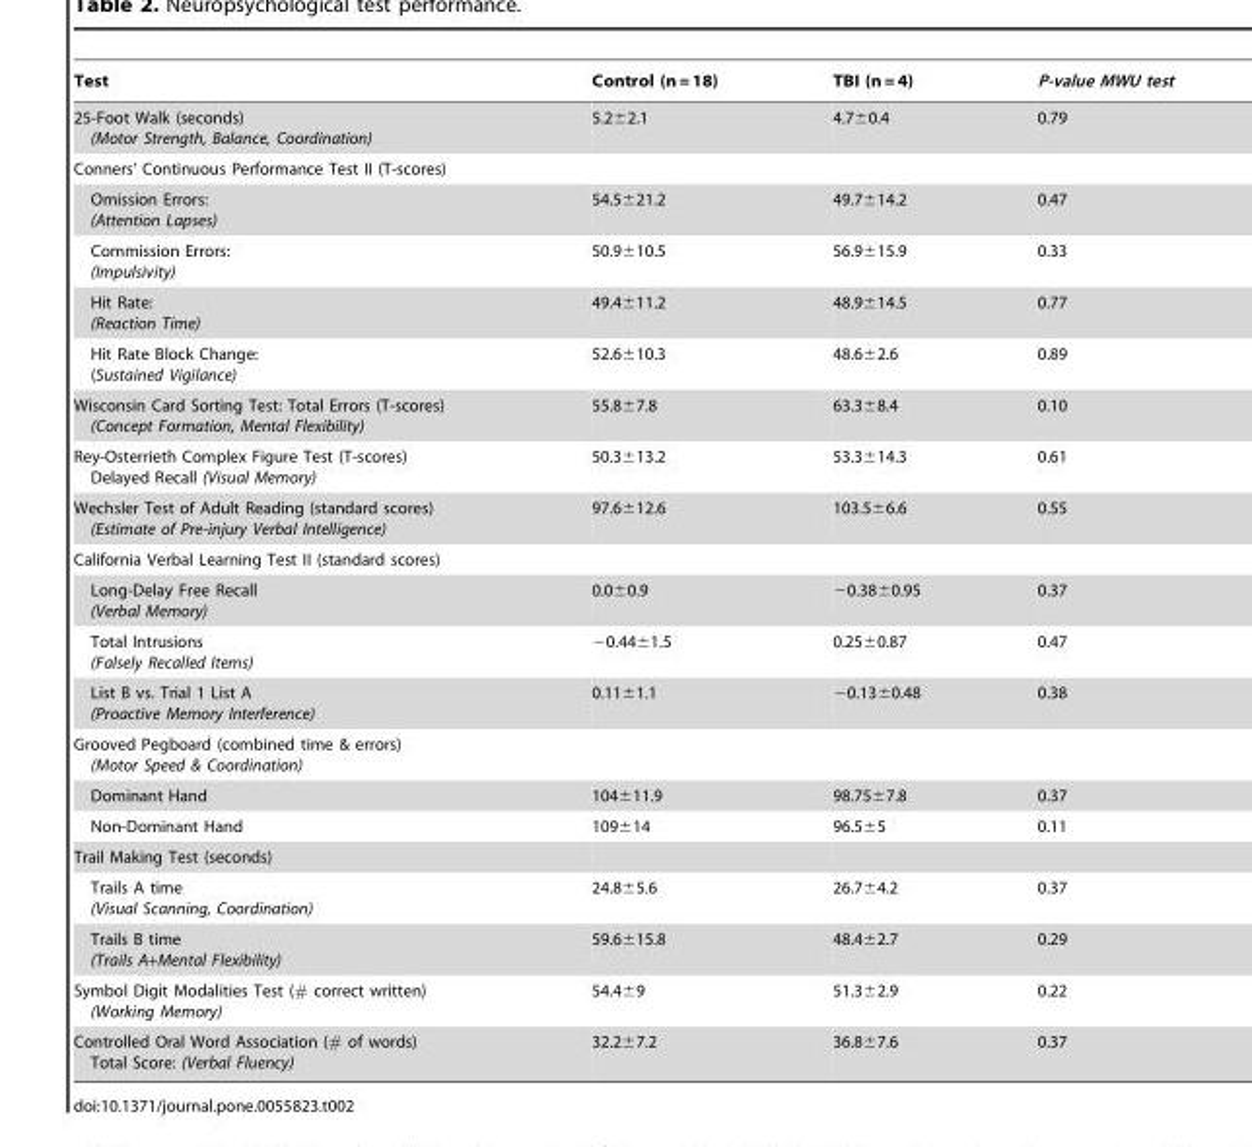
<table><thead><tr><td>Test</td><td>Control (n = 18)</td><td>TBI (n = 4)</td><td>P-value MWU test</td></tr></thead><tbody><tr><td>25-Foot Walk (seconds) (Motor Strength, Balance, Coordination)</td><td>5.2±2.1</td><td>4.7±0.4</td><td>0.79</td></tr><tr><td colspan="4">Conners’ Continuous Performance Test II (T-scores)</td></tr><tr><td>Omission Errors: (Attention Lapses)</td><td>54.5±21.2</td><td>49.7±14.2</td><td>0.47</td></tr><tr><td>Commission Errors: (Impulsivity)</td><td>50.9±10.5</td><td>56.9±15.9</td><td>0.33</td></tr><tr><td>Hit Rate: (Reaction Time)</td><td>49.4±11.2</td><td>48.9±14.5</td><td>0.77</td></tr><tr><td>Hit Rate Block Change: (Sustained Vigilance)</td><td>52.6±10.3</td><td>48.6±2.6</td><td>0.89</td></tr><tr><td>Wisconsin Card Sorting Test: Total Errors (T-scores) (Concept Formation, Mental Flexibility)</td><td>55.8±7.8</td><td>63.3±8.4</td><td>0.10</td></tr><tr><td>Rey-Osterrieth Complex Figure Test (T-scores) Delayed Recall (Visual Memory)</td><td>50.3±13.2</td><td>53.3±14.3</td><td>0.61</td></tr><tr><td>Wechsler Test of Adult Reading (standard scores) (Estimate of Pre-injury Verbal Intelligence)</td><td>97.6±12.6</td><td>103.5±6.6</td><td>0.55</td></tr><tr><td colspan="4">California Verbal Learning Test II (standard scores)</td></tr><tr><td>Long-Delay Free Recall (Verbal Memory)</td><td>0.0±0.9</td><td>−0.38±0.95</td><td>0.37</td></tr><tr><td>Total Intrusions (Falsely Recalled Items)</td><td>−0.44±1.5</td><td>0.25±0.87</td><td>0.47</td></tr><tr><td>List B vs. Trial 1 List A (Proactive Memory Interference)</td><td>0.11±1.1</td><td>−0.13±0.48</td><td>0.38</td></tr><tr><td colspan="4">Grooved Pegboard (combined time &amp; errors) (Motor Speed &amp; Coordination)</td></tr><tr><td>Dominant Hand</td><td>104±11.9</td><td>98.75±7.8</td><td>0.37</td></tr><tr><td>Non-Dominant Hand</td><td>109±14</td><td>96.5±5</td><td>0.11</td></tr><tr><td colspan="4">Trail Making Test (seconds)</td></tr><tr><td>Trails A time (Visual Scanning, Coordination)</td><td>24.8±5.6</td><td>26.7±4.2</td><td>0.37</td></tr><tr><td>Trails B time (Trails A+Mental Flexibility)</td><td>59.6±15.8</td><td>48.4±2.7</td><td>0.29</td></tr><tr><td>Symbol Digit Modalities Test (# correct written) (Working Memory)</td><td>54.4±9</td><td>51.3±2.9</td><td>0.22</td></tr><tr><td>Controlled Oral Word Association (# of words) Total Score: (Verbal Fluency)</td><td>32.2±7.2</td><td>36.8±7.6</td><td>0.37</td></tr></tbody></table>